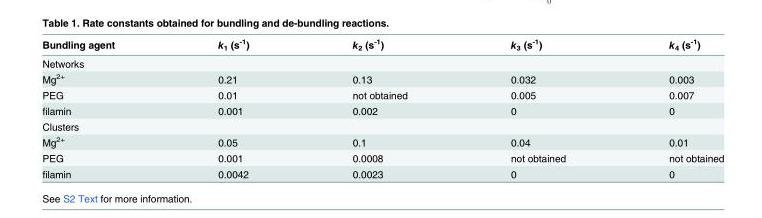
<table><thead><tr><td>Bundling agent</td><td>k<sub>1</sub> (s<sup>-1</sup>)</td><td>k<sub>2</sub> (s<sup>-1</sup>)</td><td>k<sub>3</sub> (s<sup>-1</sup>)</td><td>k<sub>4</sub> (s<sup>-1</sup>)</td></tr></thead><tbody><tr><td colspan="5">Networks</td></tr><tr><td>Mg<sup>2+</sup></td><td>0.21</td><td>0.13</td><td>0.032</td><td>0.003</td></tr><tr><td>PEG</td><td>0.01</td><td>not obtained</td><td>0.005</td><td>0.007</td></tr><tr><td>filamin</td><td>0.001</td><td>0.002</td><td>0</td><td>0</td></tr><tr><td colspan="5">Clusters</td></tr><tr><td>Mg<sup>2+</sup></td><td>0.05</td><td>0.1</td><td>0.04</td><td>0.01</td></tr><tr><td>PEG</td><td>0.001</td><td>0.0008</td><td>not obtained</td><td>not obtained</td></tr><tr><td>filamin</td><td>0.0042</td><td>0.0023</td><td>0</td><td>0</td></tr></tbody></table>